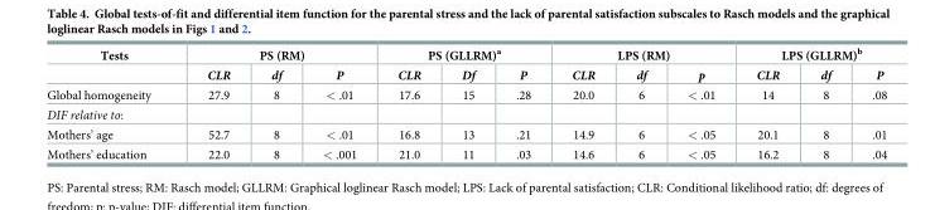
<table><thead><tr><td rowspan="2">Tests</td><td colspan="3">PS (RM)</td><td colspan="3">PS (GLLRM)<sup>a</sup></td><td colspan="3">LPS (RM)</td><td colspan="3">LPS (GLLRM)<sup>b</sup></td></tr><tr><td>CLR</td><td>df</td><td>P</td><td>CLR</td><td>Df</td><td>P</td><td>CLR</td><td>df</td><td>p</td><td>CLR</td><td>df</td><td>P</td></tr></thead><tbody><tr><td>Global homogeneity</td><td>27.9</td><td>8</td><td>&lt; .01</td><td>17.6</td><td>15</td><td>.28</td><td>20.0</td><td>6</td><td>&lt; .01</td><td>14</td><td>8</td><td>.08</td></tr><tr><td colspan="13">DIF relative to:</td></tr><tr><td>Mothers’ age</td><td>52.7</td><td>8</td><td>&lt; .01</td><td>16.8</td><td>13</td><td>.21</td><td>14.9</td><td>6</td><td>&lt; .05</td><td>20.1</td><td>8</td><td>.01</td></tr><tr><td>Mothers’ education</td><td>22.0</td><td>8</td><td>&lt; .001</td><td>21.0</td><td>11</td><td>.03</td><td>14.6</td><td>6</td><td>&lt; .05</td><td>16.2</td><td>8</td><td>.04</td></tr></tbody></table>